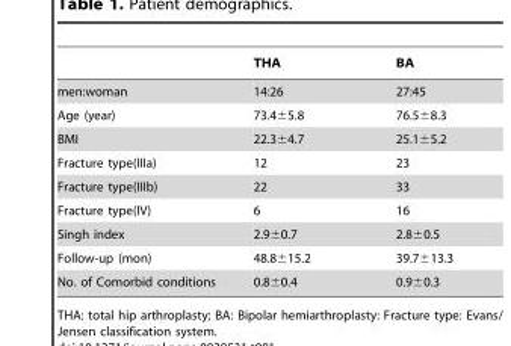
<table><thead><tr><td></td><td>THA</td><td>BA</td></tr></thead><tbody><tr><td>men:woman</td><td>14:26</td><td>27:45</td></tr><tr><td>Age (year)</td><td>73.4±5.8</td><td>76.5±8.3</td></tr><tr><td>BMI</td><td>22.3±4.7</td><td>25.1±5.2</td></tr><tr><td>Fracture type(IIIa)</td><td>12</td><td>23</td></tr><tr><td>Fracture type(IIIb)</td><td>22</td><td>33</td></tr><tr><td>Fracture type(IV)</td><td>6</td><td>16</td></tr><tr><td>Singh index</td><td>2.9±0.7</td><td>2.8±0.5</td></tr><tr><td>Follow-up (mon)</td><td>48.8±15.2</td><td>39.7±13.3</td></tr><tr><td>No. of Comorbid conditions</td><td>0.8±0.4</td><td>0.9±0.3</td></tr></tbody></table>